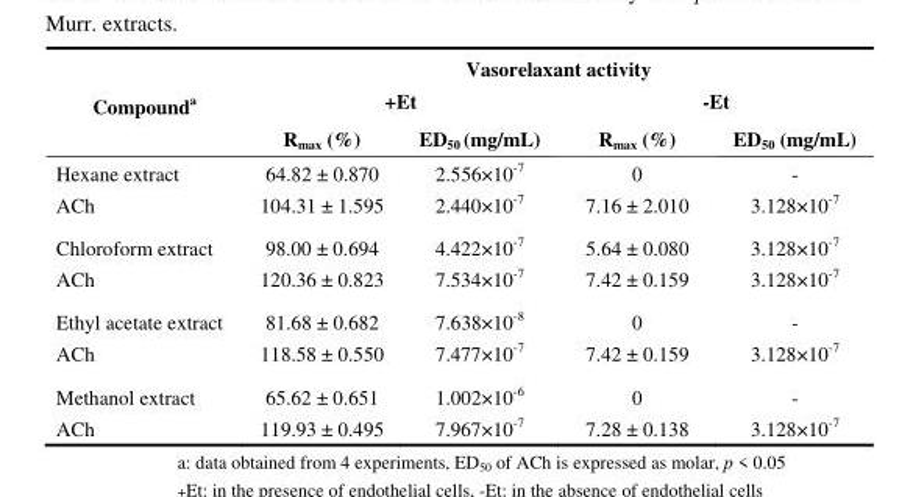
<table><thead><tr><td rowspan="3">Compound<sup>a</sup></td><td colspan="4">Vasorelaxant activity</td></tr><tr><td colspan="2">+Et</td><td colspan="2">-Et</td></tr><tr><td>R<sub>max</sub> (%)</td><td>ED<sub>50</sub> (mg/mL)</td><td>R<sub>max</sub> (%)</td><td>ED<sub>50</sub> (mg/mL)</td></tr></thead><tbody><tr><td>Hexane extract</td><td>64.82 ± 0.870</td><td>2.556×10<sup>-7</sup></td><td>0</td><td>-</td></tr><tr><td>ACh</td><td>104.31 ± 1.595</td><td>2.440×10<sup>-7</sup></td><td>7.16 ± 2.010</td><td>3.128×10<sup>-7</sup></td></tr><tr><td>Chloroform extract</td><td>98.00 ± 0.694</td><td>4.422×10<sup>-7</sup></td><td>5.64 ± 0.080</td><td>3.128×10<sup>-7</sup></td></tr><tr><td>ACh</td><td>120.36 ± 0.823</td><td>7.534×10<sup>-7</sup></td><td>7.42 ± 0.159</td><td>3.128×10<sup>-7</sup></td></tr><tr><td>Ethyl acetate extract</td><td>81.68 ± 0.682</td><td>7.638×10<sup>-8</sup></td><td>0</td><td>-</td></tr><tr><td>ACh</td><td>118.58 ± 0.550</td><td>7.477×10<sup>-7</sup></td><td>7.42 ± 0.159</td><td>3.128×10<sup>-7</sup></td></tr><tr><td>Methanol extract</td><td>65.62 ± 0.651</td><td>1.002×10<sup>-6</sup></td><td>0</td><td>-</td></tr><tr><td>ACh</td><td>119.93 ± 0.495</td><td>7.967×10<sup>-7</sup></td><td>7.28 ± 0.138</td><td>3.128×10<sup>-7</sup></td></tr></tbody></table>